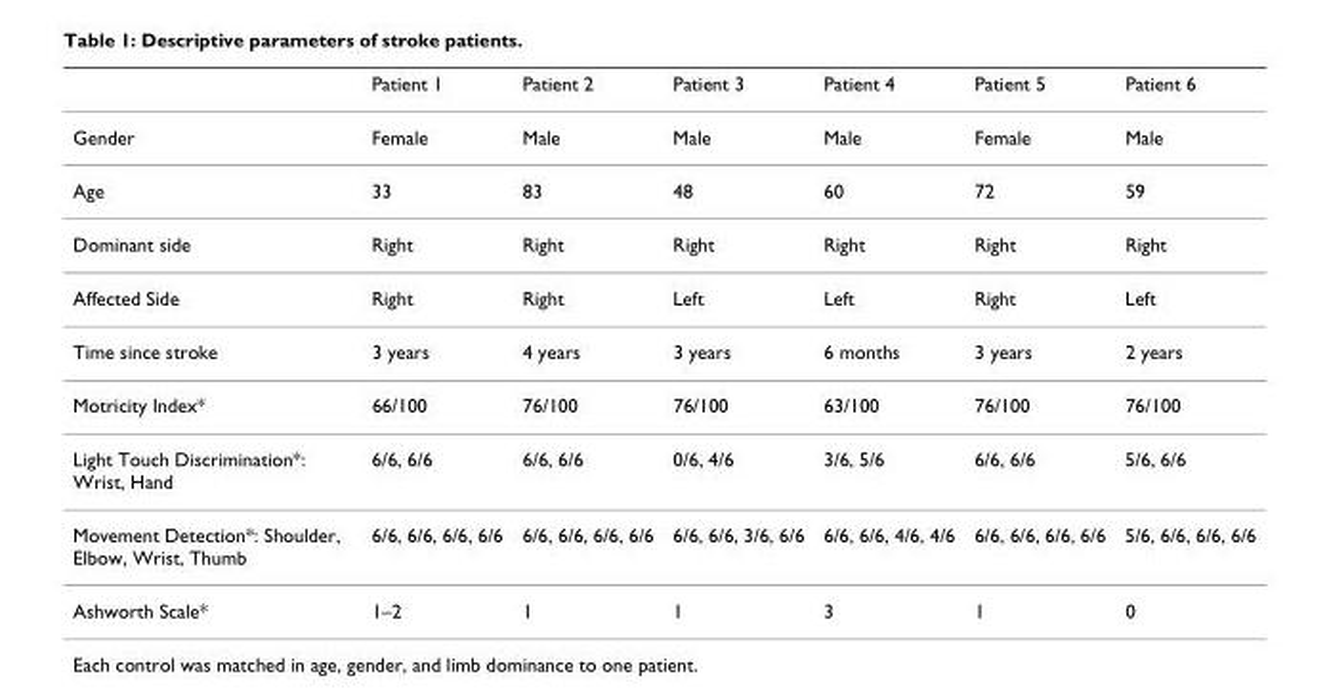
<table><thead><tr><td></td><td>Patient 1</td><td>Patient 2</td><td>Patient 3</td><td>Patient 4</td><td>Patient 5</td><td>Patient 6</td></tr></thead><tbody><tr><td>Gender</td><td>Female</td><td>Male</td><td>Male</td><td>Male</td><td>Female</td><td>Male</td></tr><tr><td>Age</td><td>33</td><td>83</td><td>48</td><td>60</td><td>72</td><td>59</td></tr><tr><td>Dominant side</td><td>Right</td><td>Right</td><td>Right</td><td>Right</td><td>Right</td><td>Right</td></tr><tr><td>Affected Side</td><td>Right</td><td>Right</td><td>Left</td><td>Left</td><td>Right</td><td>Left</td></tr><tr><td>Time since stroke</td><td>3 years</td><td>4 years</td><td>3 years</td><td>6 months</td><td>3 years</td><td>2 years</td></tr><tr><td>Motricity Index*</td><td>66/100</td><td>76/100</td><td>76/100</td><td>63/100</td><td>76/100</td><td>76/100</td></tr><tr><td>Light Touch Discrimination*: Wrist, Hand</td><td>6/6, 6/6</td><td>6/6, 6/6</td><td>0/6, 4/6</td><td>3/6, 5/6</td><td>6/6, 6/6</td><td>5/6, 6/6</td></tr><tr><td>Movement Detection*: Shoulder, Elbow, Wrist, Thumb</td><td>6/6, 6/6, 6/6, 6/6</td><td>6/6, 6/6, 6/6, 6/6</td><td>6/6, 6/6, 3/6, 6/6</td><td>6/6, 6/6, 4/6, 4/6</td><td>6/6, 6/6, 6/6, 6/6</td><td>5/6, 6/6, 6/6, 6/6</td></tr><tr><td>Ashworth Scale*</td><td>1–2</td><td>1</td><td>1</td><td>3</td><td>1</td><td>0</td></tr></tbody></table>